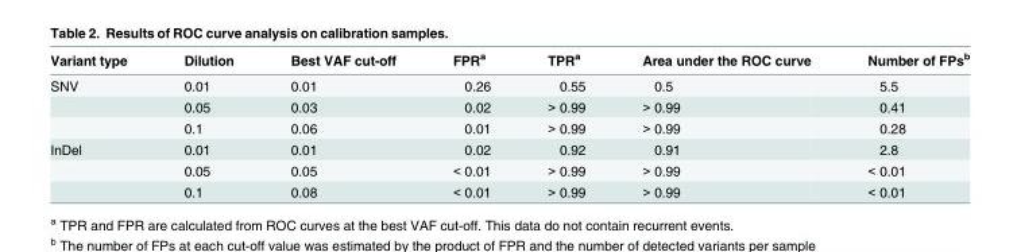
<table><thead><tr><td>Variant type</td><td>Dilution</td><td>Best VAF cut-off</td><td>FPR<sup>a</sup></td><td>TPR<sup>a</sup></td><td>Area under the ROC curve</td><td>Number of FPs<sup>b</sup></td></tr></thead><tbody><tr><td rowspan="3">SNV</td><td>0.01</td><td>0.01</td><td>0.26</td><td>0.55</td><td>0.5</td><td>5.5</td></tr><tr><td>0.05</td><td>0.03</td><td>0.02</td><td>&gt; 0.99</td><td>&gt; 0.99</td><td>0.41</td></tr><tr><td>0.1</td><td>0.06</td><td>0.01</td><td>&gt; 0.99</td><td>&gt; 0.99</td><td>0.28</td></tr><tr><td rowspan="3">InDel</td><td>0.01</td><td>0.01</td><td>0.02</td><td>0.92</td><td>0.91</td><td>2.8</td></tr><tr><td>0.05</td><td>0.05</td><td>&lt; 0.01</td><td>&gt; 0.99</td><td>&gt; 0.99</td><td>&lt; 0.01</td></tr><tr><td>0.1</td><td>0.08</td><td>&lt; 0.01</td><td>&gt; 0.99</td><td>&gt; 0.99</td><td>&lt; 0.01</td></tr></tbody></table>